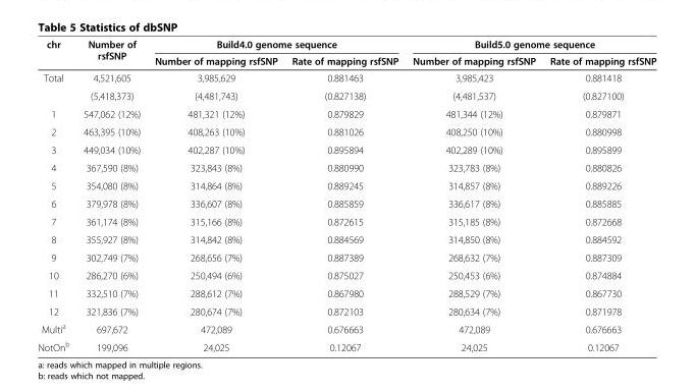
<table><thead><tr><td rowspan="2">chr</td><td rowspan="2">Number of rsfSNP</td><td colspan="2">Build4.0 genome sequence</td><td colspan="2">Build5.0 genome sequence</td></tr><tr><td>Number of mapping rsfSNP</td><td>Rate of mapping rsfSNP</td><td>Number of mapping rsfSNP</td><td>Rate of mapping rsfSNP</td></tr></thead><tbody><tr><td rowspan="2">Total</td><td>4,521,605</td><td>3,985,629</td><td>0.881463</td><td>3,985,423</td><td>0.881418</td></tr><tr><td>(5,418,373)</td><td>(4,481,743)</td><td>(0.827138)</td><td>(4,481,537)</td><td>(0.827100)</td></tr><tr><td>1</td><td>547,062 (12%)</td><td>481,321 (12%)</td><td>0.879829</td><td>481,344 (12%)</td><td>0.879871</td></tr><tr><td>2</td><td>463,395 (10%)</td><td>408,263 (10%)</td><td>0.881026</td><td>408,250 (10%)</td><td>0.880998</td></tr><tr><td>3</td><td>449,034 (10%)</td><td>402,287 (10%)</td><td>0.895894</td><td>402,289 (10%)</td><td>0.895899</td></tr><tr><td>4</td><td>367,590 (8%)</td><td>323,843 (8%)</td><td>0.880990</td><td>323,783 (8%)</td><td>0.880826</td></tr><tr><td>5</td><td>354,080 (8%)</td><td>314,864 (8%)</td><td>0.889245</td><td>314,857 (8%)</td><td>0.889226</td></tr><tr><td>6</td><td>379,978 (8%)</td><td>336,607 (8%)</td><td>0.885859</td><td>336,617 (8%)</td><td>0.885885</td></tr><tr><td>7</td><td>361,174 (8%)</td><td>315,166 (8%)</td><td>0.872615</td><td>315,185 (8%)</td><td>0.872668</td></tr><tr><td>8</td><td>355,927 (8%)</td><td>314,842 (8%)</td><td>0.884569</td><td>314,850 (8%)</td><td>0.884592</td></tr><tr><td>9</td><td>302,749 (7%)</td><td>268,656 (7%)</td><td>0.887389</td><td>268,632 (7%)</td><td>0.887309</td></tr><tr><td>10</td><td>286,270 (6%)</td><td>250,494 (6%)</td><td>0.875027</td><td>250,453 (6%)</td><td>0.874884</td></tr><tr><td>11</td><td>332,510 (7%)</td><td>288,612 (7%)</td><td>0.867980</td><td>288,529 (7%)</td><td>0.867730</td></tr><tr><td>12</td><td>321,836 (7%)</td><td>280,674 (7%)</td><td>0.872103</td><td>280,634 (7%)</td><td>0.871978</td></tr><tr><td>Multi<sup>a</sup></td><td>697,672</td><td>472,089</td><td>0.676663</td><td>472,089</td><td>0.676663</td></tr><tr><td>NotOn<sup>b</sup></td><td>199,096</td><td>24,025</td><td>0.12067</td><td>24,025</td><td>0.12067</td></tr></tbody></table>